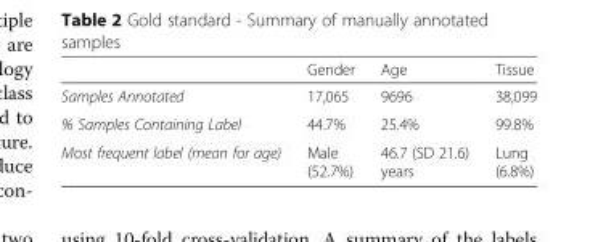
<table><thead><tr><td></td><td>Gender</td><td>Age</td><td>Tissue</td></tr></thead><tbody><tr><td>Samples Annotated</td><td>17,065</td><td>9696</td><td>38,099</td></tr><tr><td>% Samples Containing Label</td><td>44.7%</td><td>25.4%</td><td>99.8%</td></tr><tr><td>Most frequent label (mean for age)</td><td>Male (52.7%)</td><td>46.7 (SD 21.6) years</td><td>Lung (6.8%)</td></tr></tbody></table>